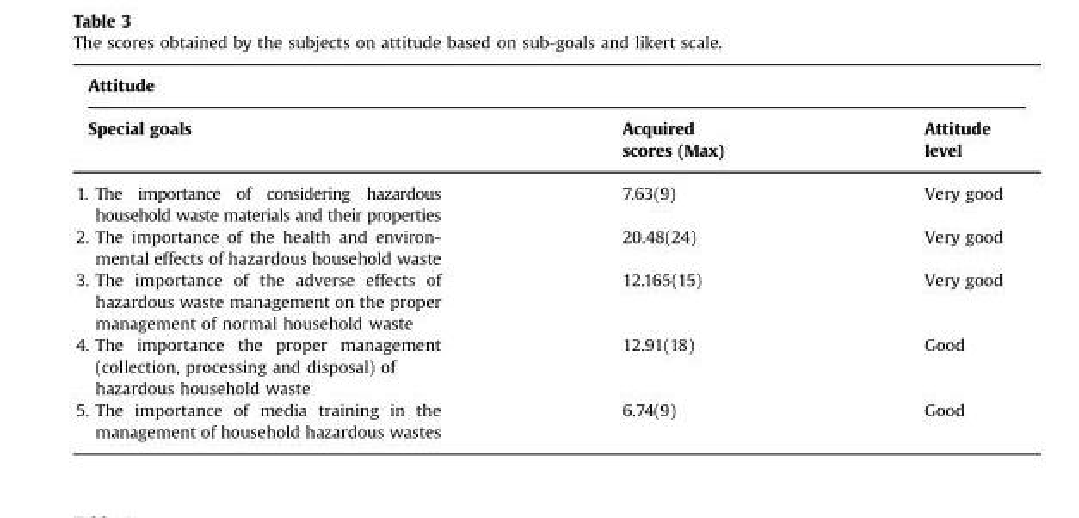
<table><thead><tr><td colspan="3">Attitude</td></tr><tr><td>Special goals</td><td>Acquired scores (Max)</td><td>Attitude level</td></tr></thead><tbody><tr><td>1. The importance of considering hazardous household waste materials and their properties</td><td>7.63(9)</td><td>Very good</td></tr><tr><td>2. The importance of the health and environ- mental effects of hazardous household waste</td><td>20.48(24)</td><td>Very good</td></tr><tr><td>3. The importance of the adverse effects of hazardous waste management on the proper management of normal household waste</td><td>12.165(15)</td><td>Very good</td></tr><tr><td>4. The importance the proper management (collection, processing and disposal) of hazardous household waste</td><td>12.91(18)</td><td>Good</td></tr><tr><td>5. The importance of media training in the management of household hazardous wastes</td><td>6.74(9)</td><td>Good</td></tr></tbody></table>